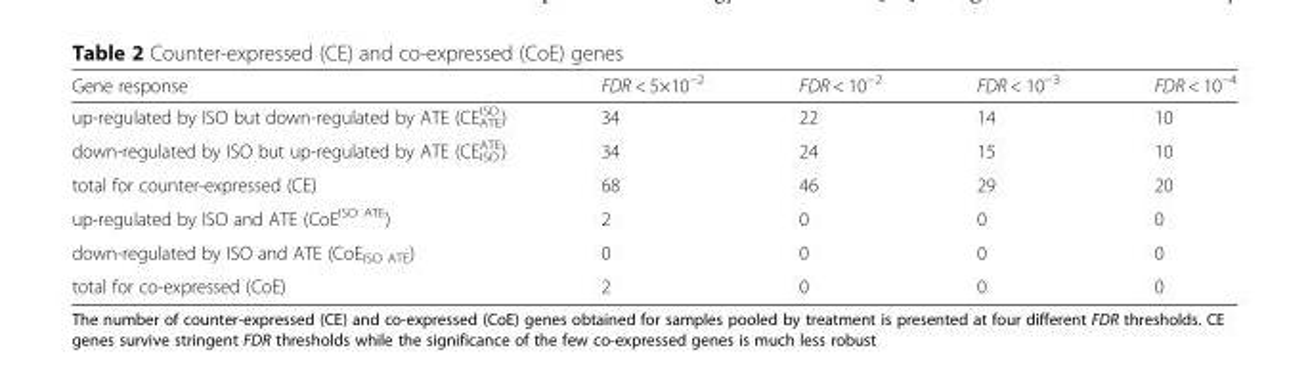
<table><thead><tr><td>Gene response</td><td>FDR &lt; 5×10<sup>−2</sup></td><td>FDR &lt; 10<sup>−2</sup></td><td>FDR &lt; 10<sup>−3</sup></td><td>FDR &lt; 10<sup>−4</sup></td></tr></thead><tbody><tr><td>up-regulated by ISO but down-regulated by ATE (CE<sup>ISO</sup> <sub>ATE</sub>)</td><td>34</td><td>22</td><td>14</td><td>10</td></tr><tr><td>down-regulated by ISO but up-regulated by ATE (CE<sub>ISO</sub> <sup>ATE</sup>)</td><td>34</td><td>24</td><td>15</td><td>10</td></tr><tr><td>total for counter-expressed (CE)</td><td>68</td><td>46</td><td>29</td><td>20</td></tr><tr><td>up-regulated by ISO and ATE (CoE<sup>ISO ATE</sup>)</td><td>2</td><td>0</td><td>0</td><td>0</td></tr><tr><td>down-regulated by ISO and ATE (CoE<sub>ISO ATE</sub>)</td><td>0</td><td>0</td><td>0</td><td>0</td></tr><tr><td>total for co-expressed (CoE)</td><td>2</td><td>0</td><td>0</td><td>0</td></tr></tbody></table>